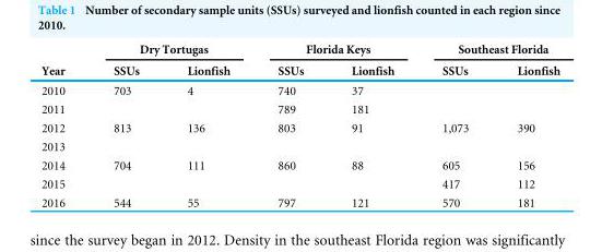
<table><thead><tr><td rowspan="2">Year</td><td colspan="2">Dry Tortugas</td><td colspan="2">Florida Keys</td><td colspan="2">Southeast Florida</td></tr><tr><td>SSUs</td><td>Lionfish</td><td>SSUs</td><td>Lionfish</td><td>SSUs</td><td>Lionfish</td></tr></thead><tbody><tr><td>2010</td><td>703</td><td>4</td><td>740</td><td>37</td><td></td><td></td></tr><tr><td>2011</td><td></td><td></td><td>789</td><td>181</td><td></td><td></td></tr><tr><td>2012</td><td>813</td><td>136</td><td>803</td><td>91</td><td>1,073</td><td>390</td></tr><tr><td colspan="7">2013</td></tr><tr><td>2014</td><td>704</td><td>111</td><td>860</td><td>88</td><td>605</td><td>156</td></tr><tr><td>2015</td><td></td><td></td><td></td><td></td><td>417</td><td>112</td></tr><tr><td>2016</td><td>544</td><td>55</td><td>797</td><td>121</td><td>570</td><td>181</td></tr></tbody></table>